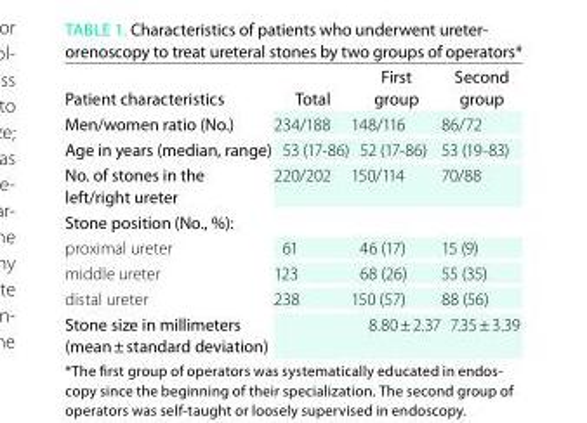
<table><thead><tr><td>Patient characteristics</td><td>total</td><td>First group</td><td>second group</td></tr></thead><tbody><tr><td>Men/women ratio (no.)</td><td>234/188</td><td>148/116</td><td>86/72</td></tr><tr><td>age in years (median, range)</td><td>53 (17-86)</td><td>52 (17-86)</td><td>53 (19-83)</td></tr><tr><td>no. of stones in the left/right ureter</td><td>220/202</td><td>150/114</td><td>70/88</td></tr><tr><td colspan="4">stone position (no., %):</td></tr><tr><td>proximal ureter</td><td>61</td><td>46 (17)</td><td>15 (9)</td></tr><tr><td>middle ureter</td><td>123</td><td>68 (26)</td><td>55 (35)</td></tr><tr><td>distal ureter</td><td>238</td><td>150 (57)</td><td>88 (56)</td></tr><tr><td>stone size in millimeters (mean ± standard deviation)</td><td></td><td>8.80 ± 2.37</td><td>7.35 ± 3.39</td></tr></tbody></table>